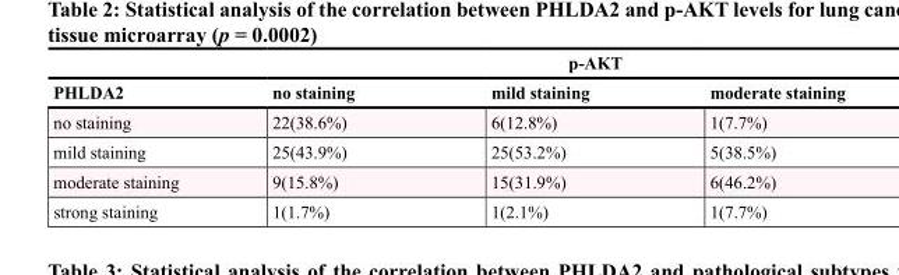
<table><thead><tr><td rowspan="2">PHLDA2</td><td colspan="3">p-AKT</td></tr><tr><td>no staining</td><td>mild staining</td><td>moderate staining</td></tr></thead><tbody><tr><td>no staining</td><td>22(38.6%)</td><td>6(12.8%)</td><td>1(7.7%)</td></tr><tr><td>mild staining</td><td>25(43.9%)</td><td>25(53.2%)</td><td>5(38.5%)</td></tr><tr><td>moderate staining</td><td>9(15.8%)</td><td>15(31.9%)</td><td>6(46.2%)</td></tr><tr><td>strong staining</td><td>1(1.7%)</td><td>1(2.1%)</td><td>1(7.7%)</td></tr></tbody></table>